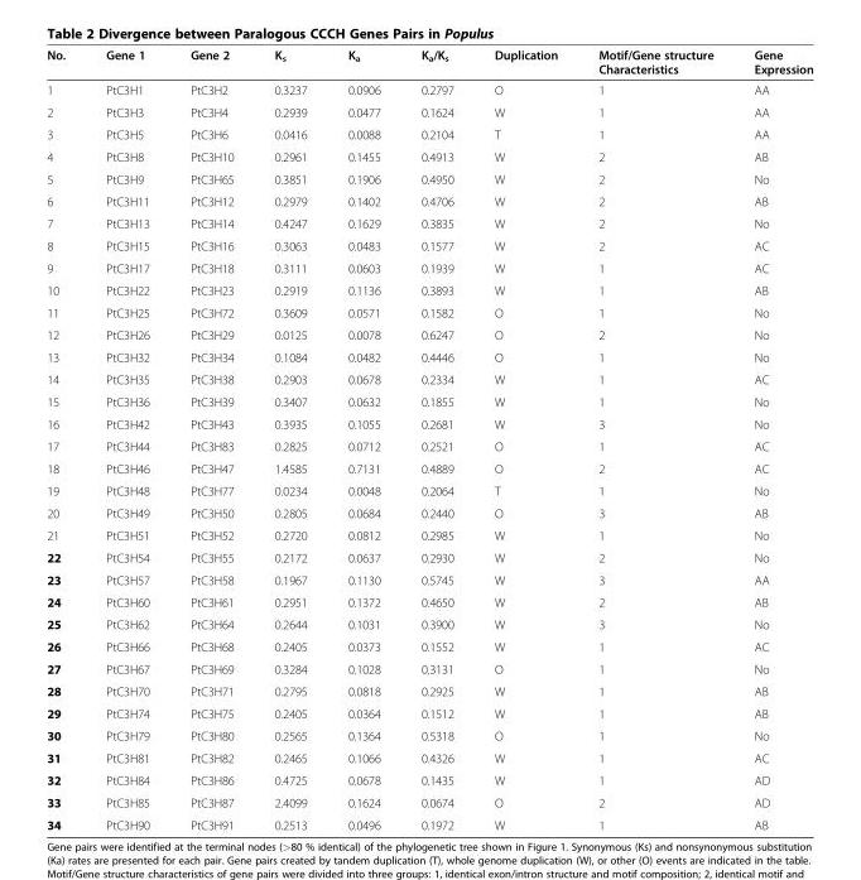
<table><thead><tr><td>No.</td><td>Gene 1</td><td>Gene 2</td><td>K<sub>s</sub></td><td>K<sub>a</sub></td><td>K<sub>a</sub>/K<sub>s</sub></td><td>Duplication</td><td>Motif/Gene structure Characteristics</td><td>Gene Expression</td></tr></thead><tbody><tr><td>1</td><td>PtC3H1</td><td>PtC3H2</td><td>0.3237</td><td>0.0906</td><td>0.2797</td><td>O</td><td>1</td><td>AA</td></tr><tr><td>2</td><td>PtC3H3</td><td>PtC3H4</td><td>0.2939</td><td>0.0477</td><td>0.1624</td><td>W</td><td>1</td><td>AA</td></tr><tr><td>3</td><td>PtC3H5</td><td>PtC3H6</td><td>0.0416</td><td>0.0088</td><td>0.2104</td><td>T</td><td>1</td><td>AA</td></tr><tr><td>4</td><td>PtC3H8</td><td>PtC3H10</td><td>0.2961</td><td>0.1455</td><td>0.4913</td><td>W</td><td>2</td><td>AB</td></tr><tr><td>5</td><td>PtC3H9</td><td>PtC3H65</td><td>0.3851</td><td>0.1906</td><td>0.4950</td><td>W</td><td>2</td><td>No</td></tr><tr><td>6</td><td>PtC3H11</td><td>PtC3H12</td><td>0.2979</td><td>0.1402</td><td>0.4706</td><td>W</td><td>2</td><td>AB</td></tr><tr><td>7</td><td>PtC3H13</td><td>PtC3H14</td><td>0.4247</td><td>0.1629</td><td>0.3835</td><td>W</td><td>2</td><td>No</td></tr><tr><td>8</td><td>PtC3H15</td><td>PtC3H16</td><td>0.3063</td><td>0.0483</td><td>0.1577</td><td>W</td><td>2</td><td>AC</td></tr><tr><td>9</td><td>PtC3H17</td><td>PtC3H18</td><td>0.3111</td><td>0.0603</td><td>0.1939</td><td>W</td><td>1</td><td>AC</td></tr><tr><td>10</td><td>PtC3H22</td><td>PtC3H23</td><td>0.2919</td><td>0.1136</td><td>0.3893</td><td>W</td><td>1</td><td>AB</td></tr><tr><td>11</td><td>PtC3H25</td><td>PtC3H72</td><td>0.3609</td><td>0.0571</td><td>0.1582</td><td>O</td><td>1</td><td>No</td></tr><tr><td>12</td><td>PtC3H26</td><td>PtC3H29</td><td>0.0125</td><td>0.0078</td><td>0.6247</td><td>O</td><td>2</td><td>No</td></tr><tr><td>13</td><td>PtC3H32</td><td>PtC3H34</td><td>0.1084</td><td>0.0482</td><td>0.4446</td><td>O</td><td>1</td><td>No</td></tr><tr><td>14</td><td>PtC3H35</td><td>PtC3H38</td><td>0.2903</td><td>0.0678</td><td>0.2334</td><td>W</td><td>1</td><td>AC</td></tr><tr><td>15</td><td>PtC3H36</td><td>PtC3H39</td><td>0.3407</td><td>0.0632</td><td>0.1855</td><td>W</td><td>1</td><td>No</td></tr><tr><td>16</td><td>PtC3H42</td><td>PtC3H43</td><td>0.3935</td><td>0.1055</td><td>0.2681</td><td>W</td><td>3</td><td>No</td></tr><tr><td>17</td><td>PtC3H44</td><td>PtC3H83</td><td>0.2825</td><td>0.0712</td><td>0.2521</td><td>O</td><td>1</td><td>AC</td></tr><tr><td>18</td><td>PtC3H46</td><td>PtC3H47</td><td>1.4585</td><td>0.7131</td><td>0.4889</td><td>O</td><td>2</td><td>AC</td></tr><tr><td>19</td><td>PtC3H48</td><td>PtC3H77</td><td>0.0234</td><td>0.0048</td><td>0.2064</td><td>T</td><td>1</td><td>No</td></tr><tr><td>20</td><td>PtC3H49</td><td>PtC3H50</td><td>0.2805</td><td>0.0684</td><td>0.2440</td><td>O</td><td>3</td><td>AB</td></tr><tr><td>21</td><td>PtC3H51</td><td>PtC3H52</td><td>0.2720</td><td>0.0812</td><td>0.2985</td><td>W</td><td>1</td><td>No</td></tr><tr><td>22</td><td>PtC3H54</td><td>PtC3H55</td><td>0.2172</td><td>0.0637</td><td>0.2930</td><td>W</td><td>2</td><td>No</td></tr><tr><td>23</td><td>PtC3H57</td><td>PtC3H58</td><td>0.1967</td><td>0.1130</td><td>0.5745</td><td>W</td><td>3</td><td>AA</td></tr><tr><td>24</td><td>PtC3H60</td><td>PtC3H61</td><td>0.2951</td><td>0.1372</td><td>0.4650</td><td>W</td><td>2</td><td>AB</td></tr><tr><td>25</td><td>PtC3H62</td><td>PtC3H64</td><td>0.2644</td><td>0.1031</td><td>0.3900</td><td>W</td><td>3</td><td>No</td></tr><tr><td>26</td><td>PtC3H66</td><td>PtC3H68</td><td>0.2405</td><td>0.0373</td><td>0.1552</td><td>W</td><td>1</td><td>AC</td></tr><tr><td>27</td><td>PtC3H67</td><td>PtC3H69</td><td>0.3284</td><td>0.1028</td><td>0.3131</td><td>O</td><td>1</td><td>No</td></tr><tr><td>28</td><td>PtC3H70</td><td>PtC3H71</td><td>0.2795</td><td>0.0818</td><td>0.2925</td><td>W</td><td>1</td><td>AB</td></tr><tr><td>29</td><td>PtC3H74</td><td>PtC3H75</td><td>0.2405</td><td>0.0364</td><td>0.1512</td><td>W</td><td>1</td><td>AB</td></tr><tr><td>30</td><td>PtC3H79</td><td>PtC3H80</td><td>0.2565</td><td>0.1364</td><td>0.5318</td><td>O</td><td>1</td><td>No</td></tr><tr><td>31</td><td>PtC3H81</td><td>PtC3H82</td><td>0.2465</td><td>0.1066</td><td>0.4326</td><td>W</td><td>1</td><td>AC</td></tr><tr><td>32</td><td>PtC3H84</td><td>PtC3H86</td><td>0.4725</td><td>0.0678</td><td>0.1435</td><td>W</td><td>1</td><td>AD</td></tr><tr><td>33</td><td>PtC3H85</td><td>PtC3H87</td><td>2.4099</td><td>0.1624</td><td>0.0674</td><td>O</td><td>2</td><td>AD</td></tr><tr><td>34</td><td>PtC3H90</td><td>PtC3H91</td><td>0.2513</td><td>0.0496</td><td>0.1972</td><td>W</td><td>1</td><td>AB</td></tr></tbody></table>